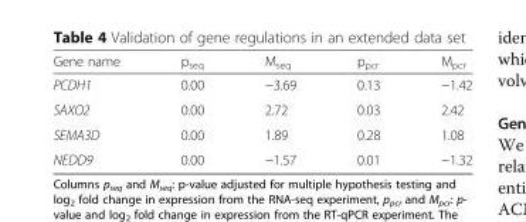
<table><thead><tr><td>Gene name</td><td>p<sub>seq</sub></td><td>M<sub>seq</sub></td><td>p<sub>pcr</sub></td><td>M<sub>pcr</sub></td></tr></thead><tbody><tr><td>PCDH1</td><td>0.00</td><td>−3.69</td><td>0.13</td><td>−1.42</td></tr><tr><td>SAXO2</td><td>0.00</td><td>2.72</td><td>0.03</td><td>2.42</td></tr><tr><td>SEMA3D</td><td>0.00</td><td>1.89</td><td>0.28</td><td>1.08</td></tr><tr><td>NEDD9</td><td>0.00</td><td>−1.57</td><td>0.01</td><td>−1.32</td></tr></tbody></table>